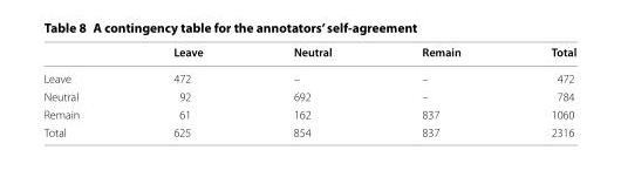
<table><thead><tr><td></td><td>Leave</td><td>Neutral</td><td>Remain</td><td>Total</td></tr></thead><tbody><tr><td>Leave</td><td>472</td><td>–</td><td>–</td><td>472</td></tr><tr><td>Neutral</td><td>92</td><td>692</td><td>–</td><td>784</td></tr><tr><td>Remain</td><td>61</td><td>162</td><td>837</td><td>1060</td></tr><tr><td>Total</td><td>625</td><td>854</td><td>837</td><td>2316</td></tr></tbody></table>